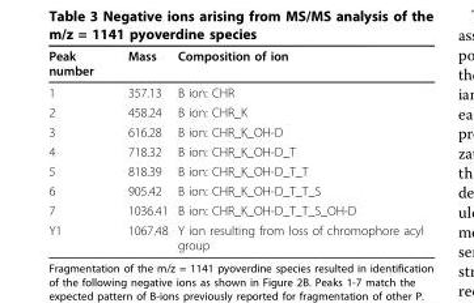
<table><thead><tr><td>Peak number</td><td>Mass</td><td>Composition of ion</td></tr></thead><tbody><tr><td>1</td><td>357.13</td><td>B ion: CHR</td></tr><tr><td>2</td><td>458.24</td><td>B ion: CHR_K</td></tr><tr><td>3</td><td>616.28</td><td>B ion: CHR_K_OH-D</td></tr><tr><td>4</td><td>718.32</td><td>B ion: CHR_K_OH-D_T</td></tr><tr><td>5</td><td>818.39</td><td>B ion: CHR_K_OH-D_T_T</td></tr><tr><td>6</td><td>905.42</td><td>B ion: CHR_K_OH-D_T_T_S</td></tr><tr><td>7</td><td>1036.41</td><td>B ion: CHR_K_OH-D_T_T_S_OH-D</td></tr><tr><td>Y1</td><td>1067.48</td><td>Y ion resulting from loss of chromophore acyl group</td></tr></tbody></table>